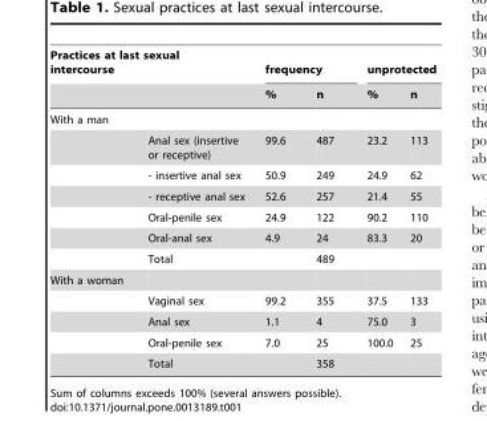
<table><thead><tr><td colspan="2">Practices at last sexual intercourse</td><td colspan="2">frequency</td><td colspan="2">unprotected</td></tr><tr><td></td><td></td><td>%</td><td>n</td><td>%</td><td>n</td></tr></thead><tbody><tr><td colspan="6">With a man</td></tr><tr><td></td><td>Anal sex (insertive or receptive)</td><td>99.6</td><td>487</td><td>23.2</td><td>113</td></tr><tr><td></td><td>- insertive anal sex</td><td>50.9</td><td>249</td><td>24.9</td><td>62</td></tr><tr><td></td><td>- receptive anal sex</td><td>52.6</td><td>257</td><td>21.4</td><td>55</td></tr><tr><td></td><td>Oral-penile sex</td><td>24.9</td><td>122</td><td>90.2</td><td>110</td></tr><tr><td></td><td>Oral-anal sex</td><td>4.9</td><td>24</td><td>83.3</td><td>20</td></tr><tr><td></td><td>Total</td><td></td><td>489</td><td></td><td></td></tr><tr><td colspan="6">With a woman</td></tr><tr><td></td><td>Vaginal sex</td><td>99.2</td><td>355</td><td>37.5</td><td>133</td></tr><tr><td></td><td>Anal sex</td><td>1.1</td><td>4</td><td>75.0</td><td>3</td></tr><tr><td></td><td>Oral-penile sex</td><td>7.0</td><td>25</td><td>100.0</td><td>25</td></tr><tr><td></td><td>Total</td><td></td><td>358</td><td></td><td></td></tr></tbody></table>